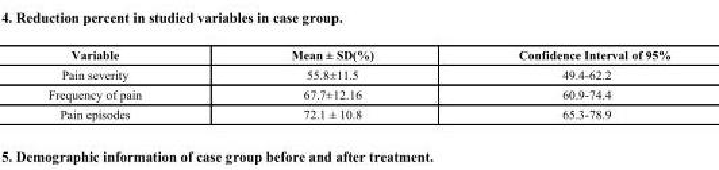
<table><thead><tr><td>Variable</td><td>Mean ± SD(%)</td><td>Confidence Interval of 95%</td></tr></thead><tbody><tr><td>Pain severity</td><td>55.8±11.5</td><td>49.4-62.2</td></tr><tr><td>Frequency of pain</td><td>67.7±12.16</td><td>60.9-74.4</td></tr><tr><td>Pain episodes</td><td>72.1 ± 10.8</td><td>65.3-78.9</td></tr></tbody></table>